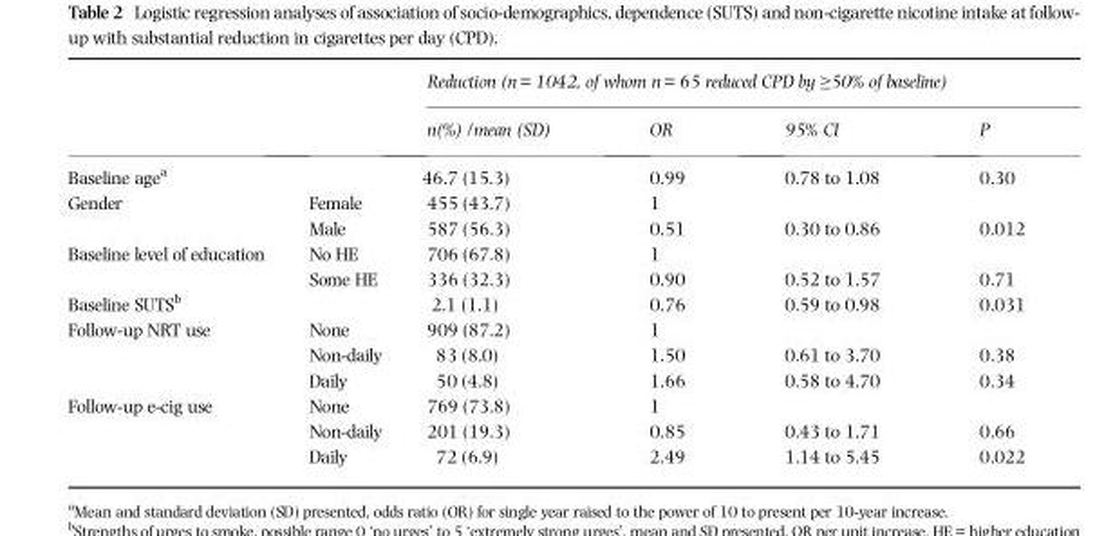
<table><thead><tr><td rowspan="2"></td><td rowspan="2"></td><td colspan="4">Reduction (n = 1042, of whom n = 65 reduced CPD by ≥50% of baseline)</td></tr><tr><td>n(%) /mean (SD)</td><td>OR</td><td>95% CI</td><td>P</td></tr></thead><tbody><tr><td>Baseline age<sup>a</sup></td><td></td><td>46.7 (15.3)</td><td>0.99</td><td>0.78 to 1.08</td><td>0.30</td></tr><tr><td rowspan="2">Gender</td><td>Female</td><td>455 (43.7)</td><td>1</td><td></td><td></td></tr><tr><td>Male</td><td>587 (56.3)</td><td>0.51</td><td>0.30 to 0.86</td><td>0.012</td></tr><tr><td rowspan="2">Baseline level of education</td><td>No HE</td><td>706 (67.8)</td><td>1</td><td></td><td></td></tr><tr><td>Some HE</td><td>336 (32.3)</td><td>0.90</td><td>0.52 to 1.57</td><td>0.71</td></tr><tr><td>Baseline SUTS<sup>b</sup></td><td></td><td>2.1 (1.1)</td><td>0.76</td><td>0.59 to 0.98</td><td>0.031</td></tr><tr><td rowspan="3">Follow-up NRT use</td><td>None</td><td>909 (87.2)</td><td>1</td><td></td><td></td></tr><tr><td>Non-daily</td><td>83 (8.0)</td><td>1.50</td><td>0.61 to 3.70</td><td>0.38</td></tr><tr><td>Daily</td><td>50 (4.8)</td><td>1.66</td><td>0.58 to 4.70</td><td>0.34</td></tr><tr><td rowspan="3">Follow-up e-cig use</td><td>None</td><td>769 (73.8)</td><td>1</td><td></td><td></td></tr><tr><td>Non-daily</td><td>201 (19.3)</td><td>0.85</td><td>0.43 to 1.71</td><td>0.66</td></tr><tr><td>Daily</td><td>72 (6.9)</td><td>2.49</td><td>1.14 to 5.45</td><td>0.022</td></tr></tbody></table>